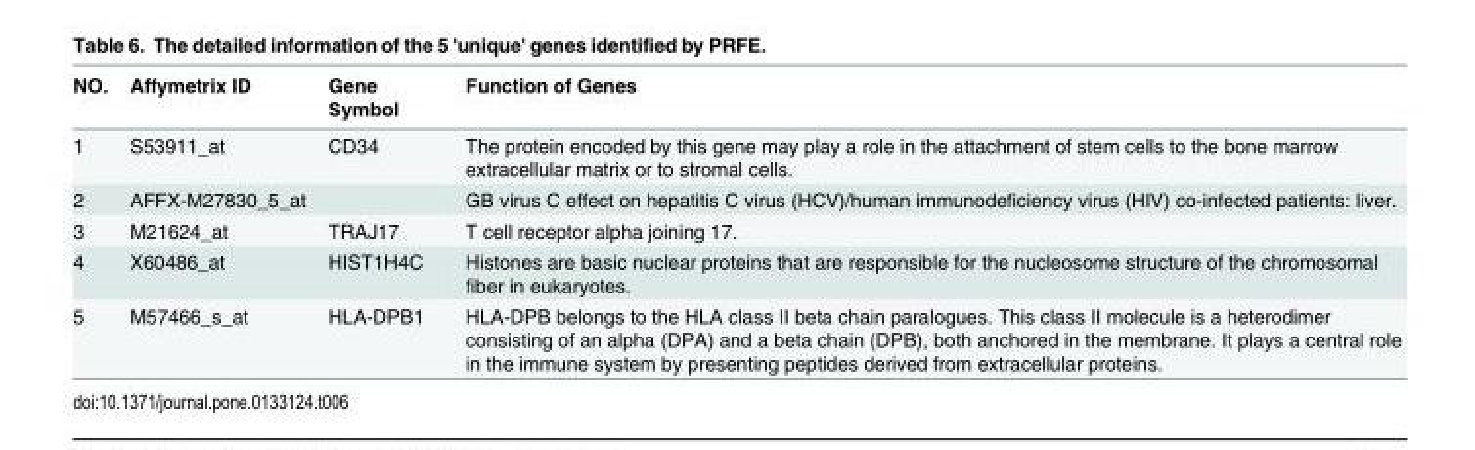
<table><thead><tr><td>NO.</td><td>Affymetrix ID</td><td>Gene Symbol</td><td>Function of Genes</td></tr></thead><tbody><tr><td>1</td><td>S53911_at</td><td>CD34</td><td>The protein encoded by this gene may play a role in the attachment of stem cells to the bone marrow extracellular matrix or to stromal cells.</td></tr><tr><td>2</td><td>AFFX-M27830_5_at</td><td></td><td>GB virus C effect on hepatitis C virus (HCV)/human immunodeficiency virus (HIV) co-infected patients: liver.</td></tr><tr><td>3</td><td>M21624_at</td><td>TRAJ17</td><td>T cell receptor alpha joining 17.</td></tr><tr><td>4</td><td>X60486_at</td><td>HIST1H4C</td><td>Histones are basic nuclear proteins that are responsible for the nucleosome structure of the chromosomal fiber in eukaryotes.</td></tr><tr><td>5</td><td>M57466_s_at</td><td>HLA-DPB1</td><td>HLA-DPB belongs to the HLA class II beta chain paralogues. This class II molecule is a heterodimer consisting of an alpha (DPA) and a beta chain (DPB), both anchored in the membrane. It plays a central role in the immune system by presenting peptides derived from extracellular proteins.</td></tr></tbody></table>